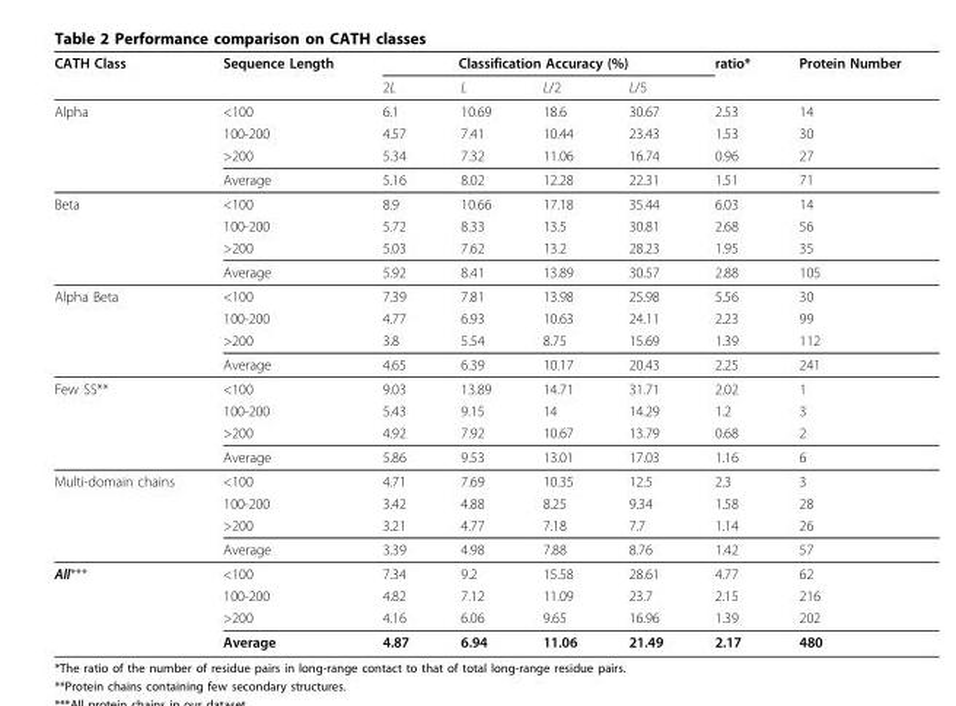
<table><thead><tr><td rowspan="2">CATH Class</td><td rowspan="2">Sequence Length</td><td colspan="4">Classification Accuracy (%)</td><td rowspan="2">ratio*</td><td rowspan="2">Protein Number</td></tr><tr><td>2L</td><td>L</td><td>L/2</td><td>L/5</td></tr></thead><tbody><tr><td rowspan="4">Alpha</td><td>&lt;100</td><td>6.1</td><td>10.69</td><td>18.6</td><td>30.67</td><td>2.53</td><td>14</td></tr><tr><td>100-200</td><td>4.57</td><td>7.41</td><td>10.44</td><td>23.43</td><td>1.53</td><td>30</td></tr><tr><td>&gt;200</td><td>5.34</td><td>7.32</td><td>11.06</td><td>16.74</td><td>0.96</td><td>27</td></tr><tr><td>Average</td><td>5.16</td><td>8.02</td><td>12.28</td><td>22.31</td><td>1.51</td><td>71</td></tr><tr><td rowspan="4">Beta</td><td>&lt;100</td><td>8.9</td><td>10.66</td><td>17.18</td><td>35.44</td><td>6.03</td><td>14</td></tr><tr><td>100-200</td><td>5.72</td><td>8.33</td><td>13.5</td><td>30.81</td><td>2.68</td><td>56</td></tr><tr><td>&gt;200</td><td>5.03</td><td>7.62</td><td>13.2</td><td>28.23</td><td>1.95</td><td>35</td></tr><tr><td>Average</td><td>5.92</td><td>8.41</td><td>13.89</td><td>30.57</td><td>2.88</td><td>105</td></tr><tr><td rowspan="4">Alpha Beta</td><td>&lt;100</td><td>7.39</td><td>7.81</td><td>13.98</td><td>25.98</td><td>5.56</td><td>30</td></tr><tr><td>100-200</td><td>4.77</td><td>6.93</td><td>10.63</td><td>24.11</td><td>2.23</td><td>99</td></tr><tr><td>&gt;200</td><td>3.8</td><td>5.54</td><td>8.75</td><td>15.69</td><td>1.39</td><td>112</td></tr><tr><td>Average</td><td>4.65</td><td>6.39</td><td>10.17</td><td>20.43</td><td>2.25</td><td>241</td></tr><tr><td rowspan="4">Few SS**</td><td>&lt;100</td><td>9.03</td><td>13.89</td><td>14.71</td><td>31.71</td><td>2.02</td><td>1</td></tr><tr><td>100-200</td><td>5.43</td><td>9.15</td><td>14</td><td>14.29</td><td>1.2</td><td>3</td></tr><tr><td>&gt;200</td><td>4.92</td><td>7.92</td><td>10.67</td><td>13.79</td><td>0.68</td><td>2</td></tr><tr><td>Average</td><td>5.86</td><td>9.53</td><td>13.01</td><td>17.03</td><td>1.16</td><td>6</td></tr><tr><td rowspan="4">Multi-domain chains</td><td>&lt;100</td><td>4.71</td><td>7.69</td><td>10.35</td><td>12.5</td><td>2.3</td><td>3</td></tr><tr><td>100-200</td><td>3.42</td><td>4.88</td><td>8.25</td><td>9.34</td><td>1.58</td><td>28</td></tr><tr><td>&gt;200</td><td>3.21</td><td>4.77</td><td>7.18</td><td>7.7</td><td>1.14</td><td>26</td></tr><tr><td>Average</td><td>3.39</td><td>4.98</td><td>7.88</td><td>8.76</td><td>1.42</td><td>57</td></tr><tr><td rowspan="4">All***</td><td>&lt;100</td><td>7.34</td><td>9.2</td><td>15.58</td><td>28.61</td><td>4.77</td><td>62</td></tr><tr><td>100-200</td><td>4.82</td><td>7.12</td><td>11.09</td><td>23.7</td><td>2.15</td><td>216</td></tr><tr><td>&gt;200</td><td>4.16</td><td>6.06</td><td>9.65</td><td>16.96</td><td>1.39</td><td>202</td></tr><tr><td>Average</td><td>4.87</td><td>6.94</td><td>11.06</td><td>21.49</td><td>2.17</td><td>480</td></tr></tbody></table>